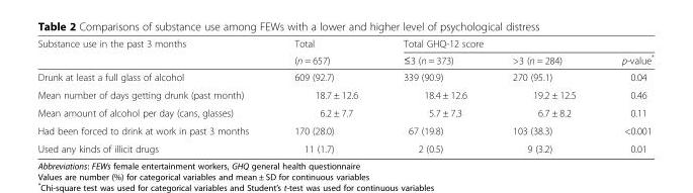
<table><thead><tr><td rowspan="2">Substance use in the past 3 months</td><td rowspan="2">Total (n = 657)</td><td colspan="3">Total GHQ-12 score</td></tr><tr><td>≤3 (n = 373)</td><td>&gt;3 (n = 284)</td><td>p-value*</td></tr></thead><tbody><tr><td>Drunk at least a full glass of alcohol</td><td>609 (92.7)</td><td>339 (90.9)</td><td>270 (95.1)</td><td>0.04</td></tr><tr><td>Mean number of days getting drunk (past month)</td><td>18.7 ± 12.6</td><td>18.4 ± 12.6</td><td>19.2 ± 12.5</td><td>0.46</td></tr><tr><td>Mean amount of alcohol per day (cans, glasses)</td><td>6.2 ± 7.7</td><td>5.7 ± 7.3</td><td>6.7 ± 8.2</td><td>0.11</td></tr><tr><td>Had been forced to drink at work in past 3 months</td><td>170 (28.0)</td><td>67 (19.8)</td><td>103 (38.3)</td><td>&lt;0.001</td></tr><tr><td>Used any kinds of illicit drugs</td><td>11 (1.7)</td><td>2 (0.5)</td><td>9 (3.2)</td><td>0.01</td></tr></tbody></table>